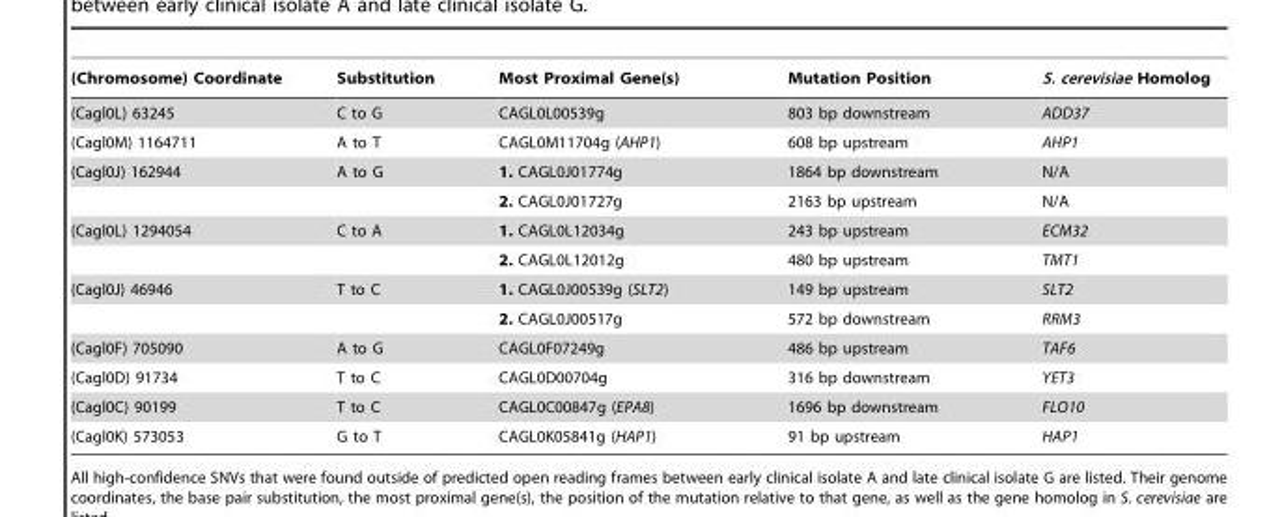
<table><thead><tr><td>(Chromosome) Coordinate</td><td>Substitution</td><td>Most Proximal Gene(s)</td><td>Mutation Position</td><td>S. cerevisiae Homolog</td></tr></thead><tbody><tr><td>(Cagl0L) 63245</td><td>C to G</td><td>CAGL0L00539g</td><td>803 bp downstream</td><td>ADD37</td></tr><tr><td>(Cagl0M) 1164711</td><td>A to T</td><td>CAGL0M11704g (AHP1)</td><td>608 bp upstream</td><td>AHP1</td></tr><tr><td rowspan="2">(Cagl0J) 162944</td><td>A to G</td><td>1. CAGL0J01774g</td><td>1864 bp downstream</td><td>N/A</td></tr><tr><td></td><td>2. CAGL0J01727g</td><td>2163 bp upstream</td><td>N/A</td></tr><tr><td rowspan="2">(Cagl0L) 1294054</td><td>C to A</td><td>1. CAGL0L12034g</td><td>243 bp upstream</td><td>ECM32</td></tr><tr><td></td><td>2. CAGL0L12012g</td><td>480 bp upstream</td><td>TMT1</td></tr><tr><td rowspan="2">(Cagl0J) 46946</td><td>T to C</td><td>1. CAGL0J00539g (SLT2)</td><td>149 bp upstream</td><td>SLT2</td></tr><tr><td></td><td>2. CAGL0J00517g</td><td>572 bp downstream</td><td>RRM3</td></tr><tr><td>(Cagl0F) 705090</td><td>A to G</td><td>CAGL0F07249g</td><td>486 bp upstream</td><td>TAF6</td></tr><tr><td>(Cagl0D) 91734</td><td>T to C</td><td>CAGL0D00704g</td><td>316 bp downstream</td><td>YET3</td></tr><tr><td>(Cagl0C) 90199</td><td>T to C</td><td>CAGL0C00847g (EPA8)</td><td>1696 bp downstream</td><td>FLO10</td></tr><tr><td>(Cagl0K) 573053</td><td>G to T</td><td>CAGL0K05841g (HAP1)</td><td>91 bp upstream</td><td>HAP1</td></tr></tbody></table>